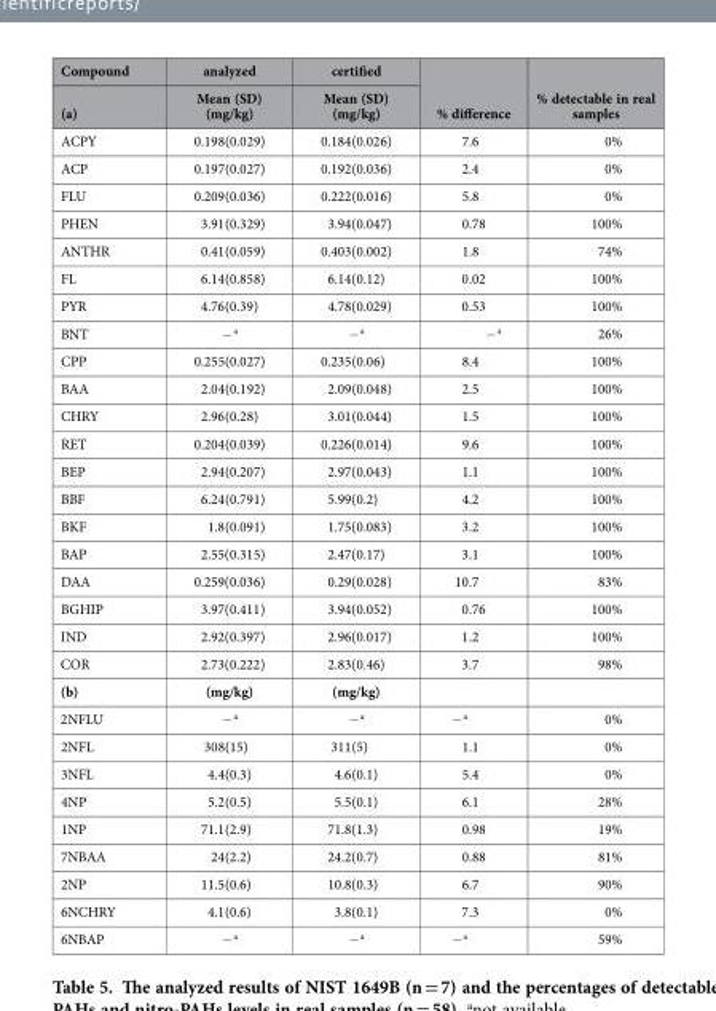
<table><thead><tr><td rowspan="2">Compound (a)</td><td rowspan="2">analyzed Mean (SD) (mg/kg)</td><td rowspan="2">certified Mean (SD) (mg/kg)</td><td rowspan="2">% difference</td><td rowspan="2">% detectable in real samples</td></tr><tr></tr></thead><tbody><tr><td>ACPY</td><td>0.198(0.029)</td><td>0.184(0.026)</td><td>7.6</td><td>0%</td></tr><tr><td>ACP</td><td>0.197(0.027)</td><td>0.192(0.036)</td><td>2.4</td><td>0%</td></tr><tr><td>FLU</td><td>0.209(0.036)</td><td>0.222(0.016)</td><td>5.8</td><td>0%</td></tr><tr><td>PHEN</td><td>3.91(0.329)</td><td>3.94(0.047)</td><td>0.78</td><td>100%</td></tr><tr><td>ANTHR</td><td>0.41(0.059)</td><td>0.403(0.002)</td><td>1.8</td><td>74%</td></tr><tr><td>FL</td><td>6.14(0.858)</td><td>6.14(0.12)</td><td>0.02</td><td>100%</td></tr><tr><td>PYR</td><td>4.76(0.39)</td><td>4.78(0.029)</td><td>0.53</td><td>100%</td></tr><tr><td>BNT</td><td>− a</td><td>− a</td><td>− a</td><td>26%</td></tr><tr><td>CPP</td><td>0.255(0.027)</td><td>0.235(0.06)</td><td>8.4</td><td>100%</td></tr><tr><td>BAA</td><td>2.04(0.192)</td><td>2.09(0.048)</td><td>2.5</td><td>100%</td></tr><tr><td>CHRY</td><td>2.96(0.28)</td><td>3.01(0.044)</td><td>1.5</td><td>100%</td></tr><tr><td>RET</td><td>0.204(0.039)</td><td>0.226(0.014)</td><td>9.6</td><td>100%</td></tr><tr><td>BEP</td><td>2.94(0.207)</td><td>2.97(0.043)</td><td>1.1</td><td>100%</td></tr><tr><td>BBF</td><td>6.24(0.791)</td><td>5.99(0.2)</td><td>4.2</td><td>100%</td></tr><tr><td>BKF</td><td>1.8(0.091)</td><td>1.75(0.083)</td><td>3.2</td><td>100%</td></tr><tr><td>BAP</td><td>2.55(0.315)</td><td>2.47(0.17)</td><td>3.1</td><td>100%</td></tr><tr><td>DAA</td><td>0.259(0.036)</td><td>0.29(0.028)</td><td>10.7</td><td>83%</td></tr><tr><td>BGHIP</td><td>3.97(0.411)</td><td>3.94(0.052)</td><td>0.76</td><td>100%</td></tr><tr><td>IND</td><td>2.92(0.397)</td><td>2.96(0.017)</td><td>1.2</td><td>100%</td></tr><tr><td>COR</td><td>2.73(0.222)</td><td>2.83(0.46)</td><td>3.7</td><td>98%</td></tr><tr><td>(b)</td><td>(mg/kg)</td><td>(mg/kg)</td><td></td><td></td></tr><tr><td>2NFLU</td><td>− a</td><td>− a</td><td>− a</td><td>0%</td></tr><tr><td>2NFL</td><td>308(15)</td><td>311(5)</td><td>1.1</td><td>0%</td></tr><tr><td>3NFL</td><td>4.4(0.3)</td><td>4.6(0.1)</td><td>5.4</td><td>0%</td></tr><tr><td>4NP</td><td>5.2(0.5)</td><td>5.5(0.1)</td><td>6.1</td><td>28%</td></tr><tr><td>1NP</td><td>71.1(2.9)</td><td>71.8(1.3)</td><td>0.98</td><td>19%</td></tr><tr><td>7NBAA</td><td>24(2.2)</td><td>24.2(0.7)</td><td>0.88</td><td>81%</td></tr><tr><td>2NP</td><td>11.5(0.6)</td><td>10.8(0.3)</td><td>6.7</td><td>90%</td></tr><tr><td>6NCHRY</td><td>4.1(0.6)</td><td>3.8(0.1)</td><td>7.3</td><td>0%</td></tr><tr><td>6NBAP</td><td>− a</td><td>− a</td><td>− a</td><td>59%</td></tr></tbody></table>